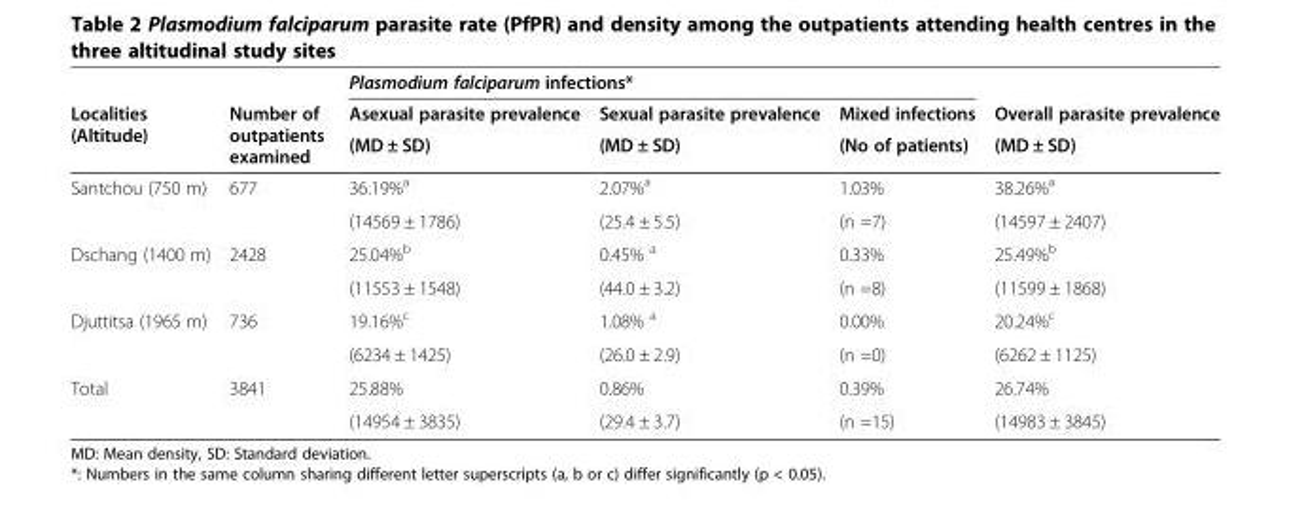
<table><thead><tr><td rowspan="3">Localities (Altitude)</td><td rowspan="3">Number of outpatients examined</td><td colspan="3">Plasmodium falciparum infections*</td><td rowspan="3">Overall parasite prevalence (MD ± SD)</td></tr><tr><td rowspan="2">Asexual parasite prevalence (MD ± SD)</td><td rowspan="2">Sexual parasite prevalence (MD ± SD)</td><td rowspan="2">Mixed infections (No of patients)</td></tr><tr></tr></thead><tbody><tr><td rowspan="2">Santchou (750 m)</td><td rowspan="2">677</td><td>36.19%<sup>a</sup></td><td>2.07%<sup>a</sup></td><td>1.03%</td><td>38.26%<sup>a</sup></td></tr><tr><td>(14569 ± 1786)</td><td>(25.4 ± 5.5)</td><td>(n =7)</td><td>(14597 ± 2407)</td></tr><tr><td rowspan="2">Dschang (1400 m)</td><td rowspan="2">2428</td><td>25.04%<sup>b</sup></td><td>0.45% <sup>a</sup></td><td>0.33%</td><td>25.49%<sup>b</sup></td></tr><tr><td>(11553 ± 1548)</td><td>(44.0 ± 3.2)</td><td>(n =8)</td><td>(11599 ± 1868)</td></tr><tr><td rowspan="2">Djuttitsa (1965 m)</td><td rowspan="2">736</td><td>19.16%<sup>c</sup></td><td>1.08% <sup>a</sup></td><td>0.00%</td><td>20.24%<sup>c</sup></td></tr><tr><td>(6234 ± 1425)</td><td>(26.0 ± 2.9)</td><td>(n =0)</td><td>(6262 ± 1125)</td></tr><tr><td rowspan="2">Total</td><td rowspan="2">3841</td><td>25.88%</td><td>0.86%</td><td>0.39%</td><td>26.74%</td></tr><tr><td>(14954 ± 3835)</td><td>(29.4 ± 3.7)</td><td>(n =15)</td><td>(14983 ± 3845)</td></tr></tbody></table>